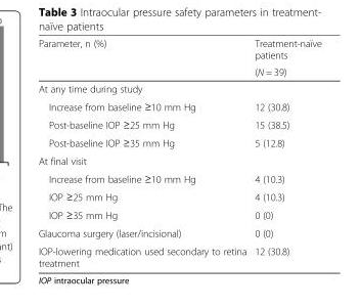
<table><thead><tr><td rowspan="2">Parameter, n (%)</td><td rowspan="2">Treatment-naïve patients (N = 39)</td></tr><tr></tr></thead><tbody><tr><td colspan="2">At any time during study</td></tr><tr><td>Increase from baseline ≥10 mm Hg</td><td>12 (30.8)</td></tr><tr><td>Post-baseline IOP ≥25 mm Hg</td><td>15 (38.5)</td></tr><tr><td>Post-baseline IOP ≥35 mm Hg</td><td>5 (12.8)</td></tr><tr><td colspan="2">At final visit</td></tr><tr><td>Increase from baseline ≥10 mm Hg</td><td>4 (10.3)</td></tr><tr><td>IOP ≥25 mm Hg</td><td>4 (10.3)</td></tr><tr><td>IOP ≥35 mm Hg</td><td>0 (0)</td></tr><tr><td>Glaucoma surgery (laser/incisional)</td><td>0 (0)</td></tr><tr><td>IOP-lowering medication used secondary to retina treatment</td><td>12 (30.8)</td></tr></tbody></table>